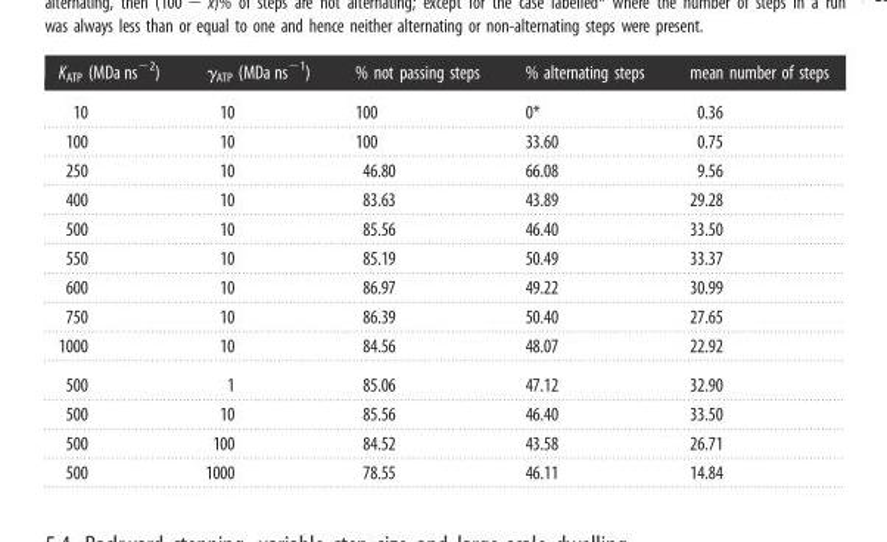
<table><thead><tr><td>K<sub>ATP</sub> (MDa ns<sup>−2</sup>)</td><td>γ<sub>ATP</sub> (MDa ns<sup>−1</sup>)</td><td>% not passing steps</td><td>% alternating steps</td><td>mean number of steps</td></tr></thead><tbody><tr><td>10</td><td>10</td><td>100</td><td>0*</td><td>0.36</td></tr><tr><td>100</td><td>10</td><td>100</td><td>33.60</td><td>0.75</td></tr><tr><td>250</td><td>10</td><td>46.80</td><td>66.08</td><td>9.56</td></tr><tr><td>400</td><td>10</td><td>83.63</td><td>43.89</td><td>29.28</td></tr><tr><td>500</td><td>10</td><td>85.56</td><td>46.40</td><td>33.50</td></tr><tr><td>550</td><td>10</td><td>85.19</td><td>50.49</td><td>33.37</td></tr><tr><td>600</td><td>10</td><td>86.97</td><td>49.22</td><td>30.99</td></tr><tr><td>750</td><td>10</td><td>86.39</td><td>50.40</td><td>27.65</td></tr><tr><td>1000</td><td>10</td><td>84.56</td><td>48.07</td><td>22.92</td></tr><tr><td>500</td><td>1</td><td>85.06</td><td>47.12</td><td>32.90</td></tr><tr><td>500</td><td>10</td><td>85.56</td><td>46.40</td><td>33.50</td></tr><tr><td>500</td><td>100</td><td>84.52</td><td>43.58</td><td>26.71</td></tr><tr><td>500</td><td>1000</td><td>78.55</td><td>46.11</td><td>14.84</td></tr></tbody></table>